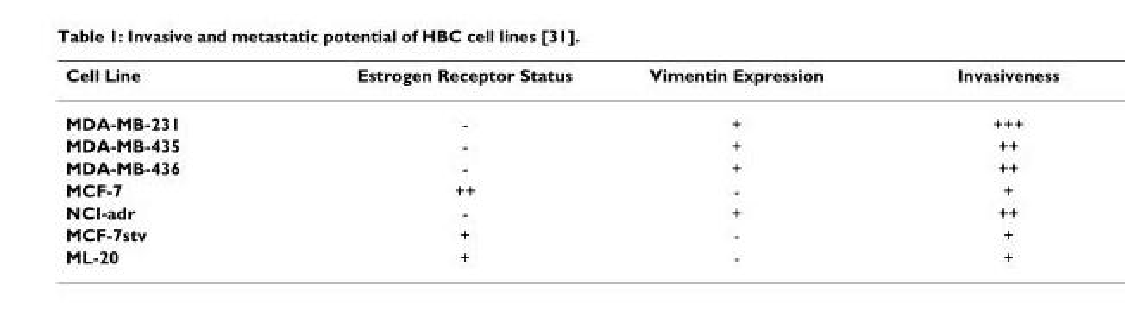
<table><thead><tr><td>Cell Line</td><td>Estrogen Receptor Status</td><td>Vimentin Expression</td><td>Invasiveness</td></tr></thead><tbody><tr><td>MDA-MB-231</td><td>-</td><td>+</td><td>+++</td></tr><tr><td>MDA-MB-435</td><td>-</td><td>+</td><td>++</td></tr><tr><td>MDA-MB-436</td><td>-</td><td>+</td><td>++</td></tr><tr><td>MCF-7</td><td>++</td><td>-</td><td>+</td></tr><tr><td>NCI-adr</td><td>-</td><td>+</td><td>++</td></tr><tr><td>MCF-7stv</td><td>+</td><td>-</td><td>+</td></tr><tr><td>ML-20</td><td>+</td><td>-</td><td>+</td></tr></tbody></table>